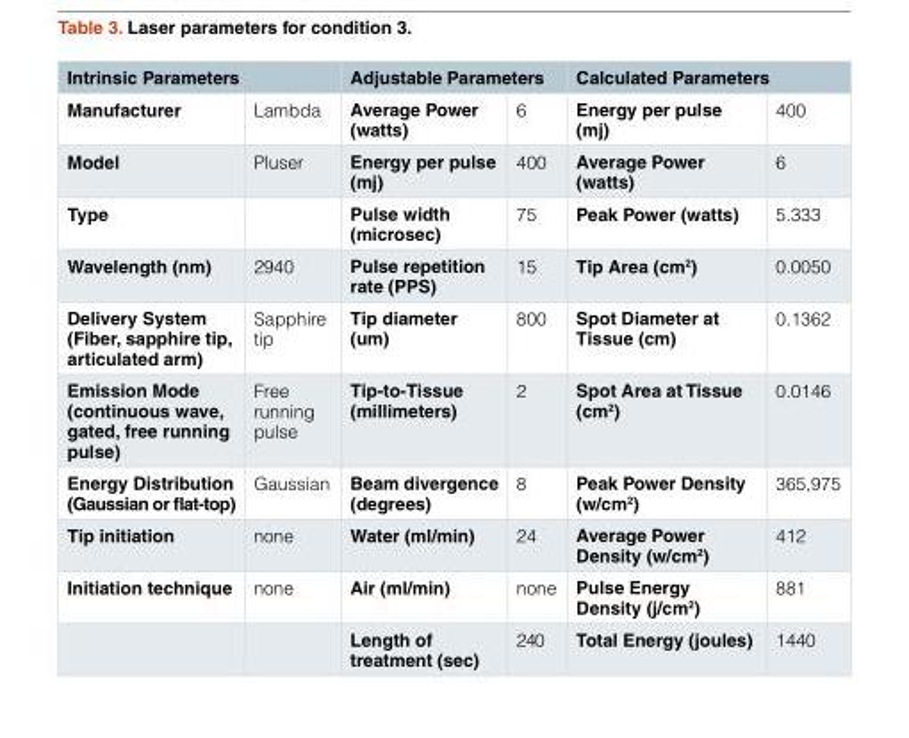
<table><thead><tr><td colspan="2">Intrinsic Parameters</td><td colspan="2">Adjustable Parameters</td><td colspan="2">Calculated Parameters</td></tr><tr><td>Manufacturer</td><td>Lambda</td><td>Average Power (watts)</td><td>6</td><td>Energy per pulse (mj)</td><td>400</td></tr></thead><tbody><tr><td>Model</td><td>Pluser</td><td>Energy per pulse (mj)</td><td>400</td><td>Average Power (watts)</td><td>6</td></tr><tr><td>Type</td><td></td><td>Pulse width (microsec)</td><td>75</td><td>Peak Power (watts)</td><td>5.333</td></tr><tr><td>Wavelength (nm)</td><td>2940</td><td>Pulse repetition rate (PPS)</td><td>15</td><td>Tip Area (cm<sup>2</sup>)</td><td>0.0050</td></tr><tr><td>Delivery System (Fiber, sapphire tip, articulated arm)</td><td>Sapphire tip</td><td>Tip diameter (um)</td><td>800</td><td>Spot Diameter at Tissue (cm)</td><td>0.1362</td></tr><tr><td>Emission Mode (continuous wave, gated, free running pulse)</td><td>Free running pulse</td><td>Tip-to-Tissue (millimeters)</td><td>2</td><td>Spot Area at Tissue (cm<sup>2</sup>)</td><td>0.0146</td></tr><tr><td>Energy Distribution (Gaussian or flat-top)</td><td>Gaussian</td><td>Beam divergence (degrees)</td><td>8</td><td>Peak Power Density (w/cm<sup>2</sup>)</td><td>365,975</td></tr><tr><td>Tip initiation</td><td>none</td><td>Water (ml/min)</td><td>24</td><td>Average Power Density (w/cm<sup>2</sup>)</td><td>412</td></tr><tr><td rowspan="2">Initiation technique</td><td>none</td><td>Air (ml/min)</td><td>none</td><td>Pulse Energy Density (j/cm<sup>2</sup>)</td><td>881</td></tr><tr><td></td><td>Length of treatment (sec)</td><td>240</td><td>Total Energy (joules)</td><td>1440</td></tr></tbody></table>